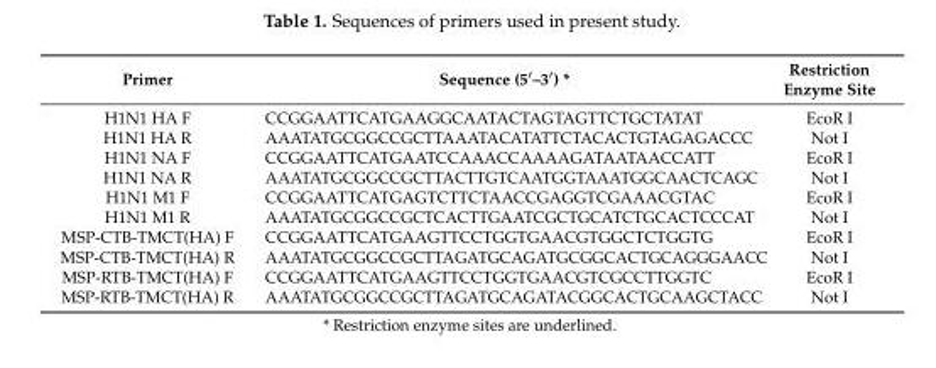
<table><thead><tr><td>Primer</td><td>Sequence (5′–3′) *</td><td>Restriction Enzyme Site</td></tr></thead><tbody><tr><td>H1N1 HA F</td><td>CCGGAATTCATGAAGGCAATACTAGTAGTTCTGCTATAT</td><td>EcoR I</td></tr><tr><td>H1N1 HA R</td><td>AAATATGCGGCCGCTTAAATACATATTCTACACTGTAGAGACCC</td><td>Not I</td></tr><tr><td>H1N1 NA F</td><td>CCGGAATTCATGAATCCAAACCAAAAGATAATAACCATT</td><td>EcoR I</td></tr><tr><td>H1N1 NA R</td><td>AAATATGCGGCCGCTTACTTGTCAATGGTAAATGGCAACTCAGC</td><td>Not I</td></tr><tr><td>H1N1 M1 F</td><td>CCGGAATTCATGAGTCTTCTAACCGAGGTCGAAACGTAC</td><td>EcoR I</td></tr><tr><td>H1N1 M1 R</td><td>AAATATGCGGCCGCTCACTTGAATCGCTGCATCTGCACTCCCAT</td><td>Not I</td></tr><tr><td>MSP-CTB-TMCT(HA) F</td><td>CCGGAATTCATGAAGTTCCTGGTGAACGTGGCTCTGGTG</td><td>EcoR I</td></tr><tr><td>MSP-CTB-TMCT(HA) R</td><td>AAATATGCGGCCGCTTAGATGCAGATGCGGCACTGCAGGGAACC</td><td>Not I</td></tr><tr><td>MSP-RTB-TMCT(HA) F</td><td>CCGGAATTCATGAAGTTCCTGGTGAACGTCGCCTTGGTC</td><td>EcoR I</td></tr><tr><td>MSP-RTB-TMCT(HA) R</td><td>AAATATGCGGCCGCTTAGATGCAGATACGGCACTGCAAGCTACC</td><td>Not I</td></tr></tbody></table>